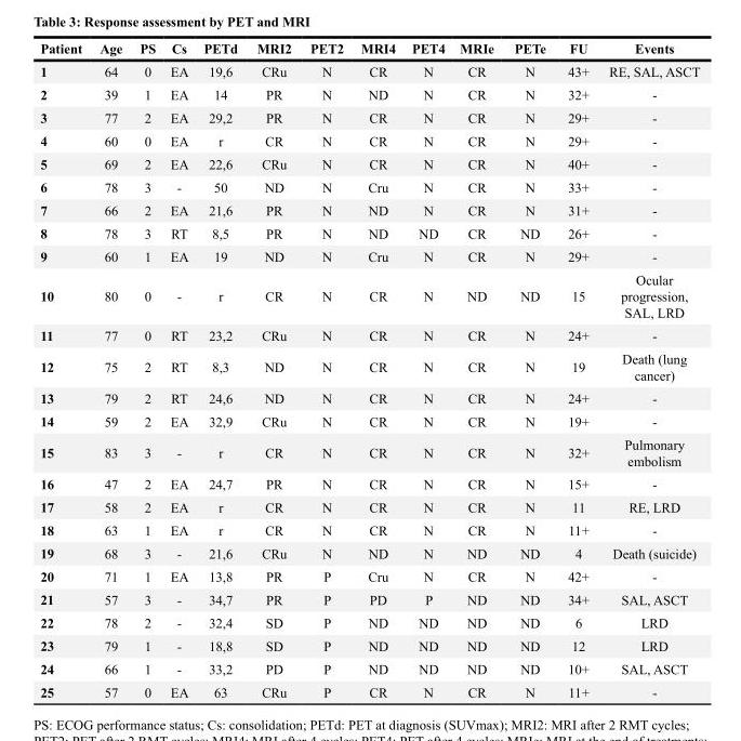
<table><thead><tr><td>Patient</td><td>Age</td><td>PS</td><td>Cs</td><td>PETd</td><td>MRI2</td><td>PET2</td><td>MRI4</td><td>PET4</td><td>MRIe</td><td>PETe</td><td>FU</td><td>Events</td></tr></thead><tbody><tr><td>1</td><td>64</td><td>0</td><td>EA</td><td>19,6</td><td>CRu</td><td>N</td><td>CR</td><td>N</td><td>CR</td><td>N</td><td>43+</td><td>RE, SAL, ASCT</td></tr><tr><td>2</td><td>39</td><td>1</td><td>EA</td><td>14</td><td>PR</td><td>N</td><td>ND</td><td>N</td><td>CR</td><td>N</td><td>32+</td><td>-</td></tr><tr><td>3</td><td>77</td><td>2</td><td>EA</td><td>29,2</td><td>PR</td><td>N</td><td>CR</td><td>N</td><td>CR</td><td>N</td><td>29+</td><td>-</td></tr><tr><td>4</td><td>60</td><td>0</td><td>EA</td><td>r</td><td>CR</td><td>N</td><td>CR</td><td>N</td><td>CR</td><td>N</td><td>29+</td><td>-</td></tr><tr><td>5</td><td>69</td><td>2</td><td>EA</td><td>22,6</td><td>CRu</td><td>N</td><td>CR</td><td>N</td><td>CR</td><td>N</td><td>40+</td><td>-</td></tr><tr><td>6</td><td>78</td><td>3</td><td>-</td><td>50</td><td>ND</td><td>N</td><td>Cru</td><td>N</td><td>CR</td><td>N</td><td>33+</td><td>-</td></tr><tr><td>7</td><td>66</td><td>2</td><td>EA</td><td>21,6</td><td>PR</td><td>N</td><td>ND</td><td>N</td><td>CR</td><td>N</td><td>31+</td><td>-</td></tr><tr><td>8</td><td>78</td><td>3</td><td>RT</td><td>8,5</td><td>PR</td><td>N</td><td>ND</td><td>ND</td><td>CR</td><td>ND</td><td>26+</td><td>-</td></tr><tr><td>9</td><td>60</td><td>1</td><td>EA</td><td>19</td><td>ND</td><td>N</td><td>Cru</td><td>N</td><td>CR</td><td>N</td><td>29+</td><td>-</td></tr><tr><td>10</td><td>80</td><td>0</td><td>-</td><td>r</td><td>CR</td><td>N</td><td>CR</td><td>N</td><td>ND</td><td>ND</td><td>15</td><td>Ocular progression, SAL, LRD</td></tr><tr><td>11</td><td>77</td><td>0</td><td>RT</td><td>23,2</td><td>CRu</td><td>N</td><td>CR</td><td>N</td><td>CR</td><td>N</td><td>24+</td><td>-</td></tr><tr><td>12</td><td>75</td><td>2</td><td>RT</td><td>8,3</td><td>ND</td><td>N</td><td>CR</td><td>N</td><td>CR</td><td>N</td><td>19</td><td>Death (lung cancer)</td></tr><tr><td>13</td><td>79</td><td>2</td><td>RT</td><td>24,6</td><td>ND</td><td>N</td><td>CR</td><td>N</td><td>CR</td><td>N</td><td>24+</td><td>-</td></tr><tr><td>14</td><td>59</td><td>2</td><td>EA</td><td>32,9</td><td>CRu</td><td>N</td><td>CR</td><td>N</td><td>CR</td><td>N</td><td>19+</td><td>-</td></tr><tr><td>15</td><td>83</td><td>3</td><td>-</td><td>r</td><td>CR</td><td>N</td><td>CR</td><td>N</td><td>CR</td><td>N</td><td>32+</td><td>Pulmonary embolism</td></tr><tr><td>16</td><td>47</td><td>2</td><td>EA</td><td>24,7</td><td>PR</td><td>N</td><td>CR</td><td>N</td><td>CR</td><td>N</td><td>15+</td><td>-</td></tr><tr><td>17</td><td>58</td><td>2</td><td>EA</td><td>r</td><td>CR</td><td>N</td><td>CR</td><td>N</td><td>CR</td><td>N</td><td>11</td><td>RE, LRD</td></tr><tr><td>18</td><td>63</td><td>1</td><td>EA</td><td>r</td><td>CR</td><td>N</td><td>CR</td><td>N</td><td>CR</td><td>N</td><td>11+</td><td>-</td></tr><tr><td>19</td><td>68</td><td>3</td><td>-</td><td>21,6</td><td>CRu</td><td>N</td><td>ND</td><td>N</td><td>ND</td><td>ND</td><td>4</td><td>Death (suicide)</td></tr><tr><td>20</td><td>71</td><td>1</td><td>EA</td><td>13,8</td><td>PR</td><td>P</td><td>Cru</td><td>N</td><td>CR</td><td>N</td><td>42+</td><td>-</td></tr><tr><td>21</td><td>57</td><td>3</td><td>-</td><td>34,7</td><td>PR</td><td>P</td><td>PD</td><td>P</td><td>ND</td><td>ND</td><td>34+</td><td>SAL, ASCT</td></tr><tr><td>22</td><td>78</td><td>2</td><td>-</td><td>32,4</td><td>SD</td><td>P</td><td>ND</td><td>ND</td><td>ND</td><td>ND</td><td>6</td><td>LRD</td></tr><tr><td>23</td><td>79</td><td>1</td><td>-</td><td>18,8</td><td>SD</td><td>P</td><td>ND</td><td>ND</td><td>ND</td><td>ND</td><td>12</td><td>LRD</td></tr><tr><td>24</td><td>66</td><td>1</td><td>-</td><td>33,2</td><td>PD</td><td>P</td><td>ND</td><td>ND</td><td>ND</td><td>ND</td><td>10+</td><td>SAL, ASCT</td></tr><tr><td>25</td><td>57</td><td>0</td><td>EA</td><td>63</td><td>CRu</td><td>P</td><td>CR</td><td>N</td><td>CR</td><td>N</td><td>11+</td><td>-</td></tr></tbody></table>